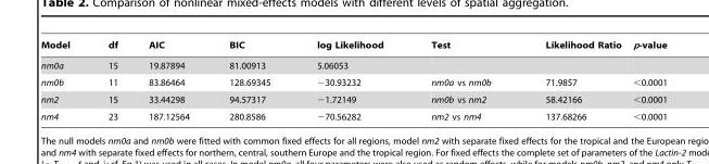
<table><thead><tr><td>Model</td><td>df</td><td>AIC</td><td>BIC</td><td>log Likelihood</td><td>Test</td><td>Likelihood Ratio</td><td>p-value</td></tr></thead><tbody><tr><td>nm0a</td><td>15</td><td>19.87894</td><td>81.00913</td><td>5.06053</td><td></td><td></td><td></td></tr><tr><td>nm0b</td><td>11</td><td>83.86464</td><td>128.69345</td><td>−30.93232</td><td>nm0a vs nm0b</td><td>71.9857</td><td>&lt;0.0001</td></tr><tr><td>nm2</td><td>15</td><td>33.44298</td><td>94.57317</td><td>−1.72149</td><td>nm0b vs nm2</td><td>58.42166</td><td>&lt;0.0001</td></tr><tr><td>nm4</td><td>23</td><td>187.12564</td><td>280.8586</td><td>−70.56282</td><td>nm2 vs nm4</td><td>137.68266</td><td>&lt;0.0001</td></tr></tbody></table>